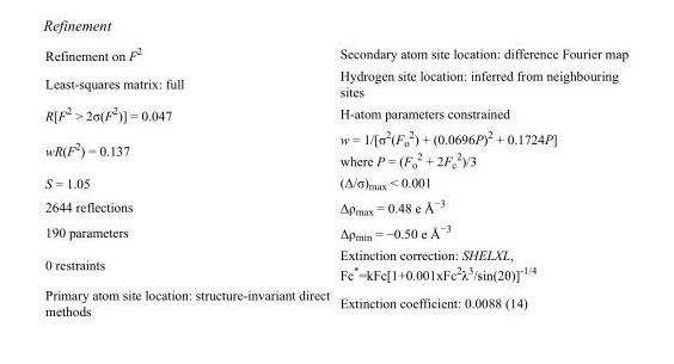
<table><tbody><tr><td>Refinement on F<sup>2</sup></td><td>Secondary atom site location: difference Fourier map</td></tr><tr><td>Least-squares matrix: full</td><td>Hydrogen site location: inferred from neighbouring sites</td></tr><tr><td>R[F<sup>2</sup> &gt; 2σ(F<sup>2</sup>)] = 0.047</td><td>H-atom parameters constrained</td></tr><tr><td>wR(F<sup>2</sup>) = 0.137</td><td>w = 1/[σ<sup>2</sup>(F<sub>o</sub> <sup>2</sup>) + (0.0696P)<sup>2</sup> + 0.1724P] where P = (F<sub>o</sub> <sup>2</sup> + 2F<sub>c</sub> <sup>2</sup>)/3</td></tr><tr><td>S = 1.05</td><td>(Δ/σ)<sub>max</sub> &lt; 0.001</td></tr><tr><td>2644 reflections</td><td>Δρ<sub>max</sub> = 0.48 e Å<sup>−3</sup></td></tr><tr><td>190 parameters</td><td>Δρ<sub>min</sub> = −0.50 e Å<sup>−3</sup></td></tr><tr><td>0 restraints</td><td>Extinction correction: SHELXL, Fc*=kFc[1+0.001xFc<sup>2</sup>λ<sup>3</sup>/sin(2θ)]<sup>-1/4</sup></td></tr><tr><td>Primary atom site location: structure-invariant direct methods</td><td>Extinction coefficient: 0.0088 (14)</td></tr></tbody></table>